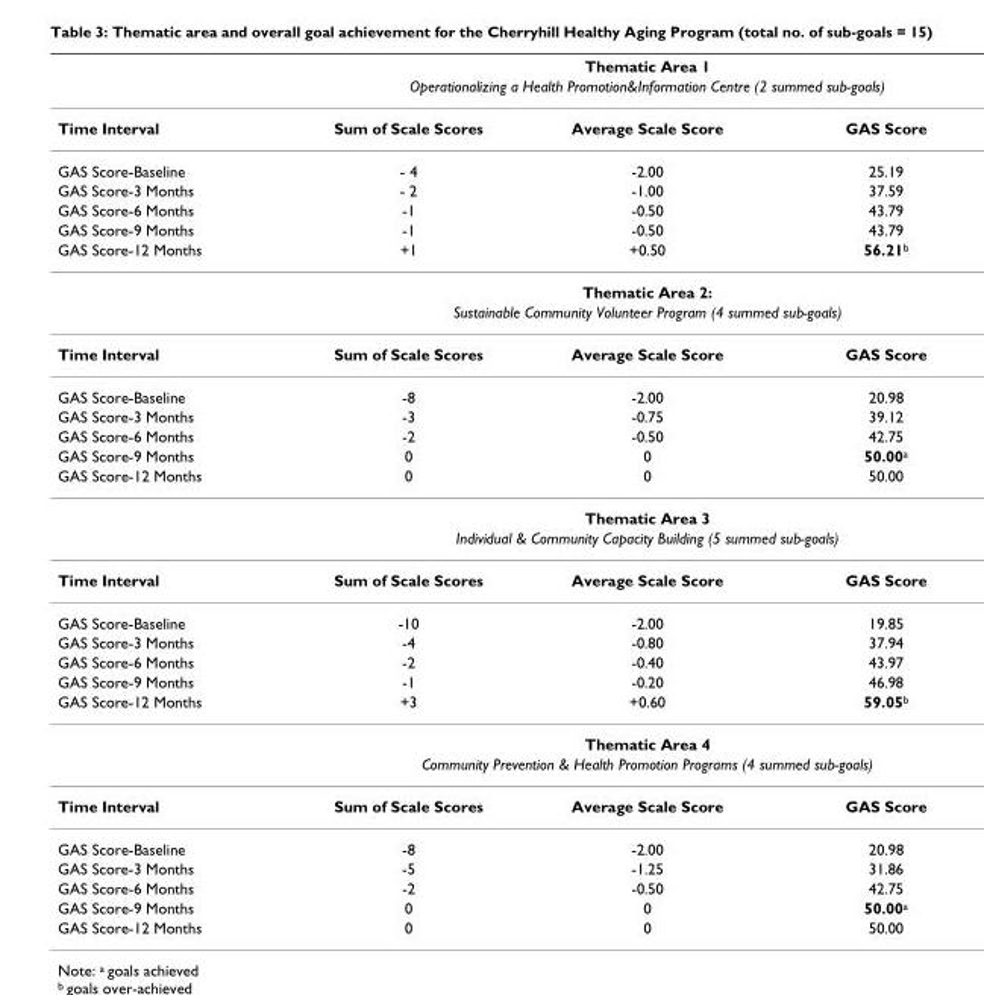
<table><thead><tr><td rowspan="3">Time Interval</td><td rowspan="2" colspan="3">Thematic Area 1 Operationalizing a Health Promotion&amp;Information Centre (2 summed sub-goals)</td></tr><tr></tr><tr><td>Sum of Scale Scores</td><td>Average Scale Score</td><td>GAS Score</td></tr></thead><tbody><tr><td>GAS Score-Baseline</td><td>- 4</td><td>-2.00</td><td>25.19</td></tr><tr><td>GAS Score-3 Months</td><td>- 2</td><td>-1.00</td><td>37.59</td></tr><tr><td>GAS Score-6 Months</td><td>-1</td><td>-0.50</td><td>43.79</td></tr><tr><td>GAS Score-9 Months</td><td>-1</td><td>-0.50</td><td>43.79</td></tr><tr><td rowspan="3">GAS Score-12 Months</td><td>+1</td><td>+0.50</td><td>56.21<sup>b</sup></td></tr><tr><td colspan="3">Thematic Area 2:</td></tr><tr><td colspan="3">Sustainable Community Volunteer Program (4 summed sub-goals)</td></tr><tr><td>Time Interval</td><td>Sum of Scale Scores</td><td>Average Scale Score</td><td>GAS Score</td></tr><tr><td>GAS Score-Baseline</td><td>-8</td><td>-2.00</td><td>20.98</td></tr><tr><td>GAS Score-3 Months</td><td>-3</td><td>-0.75</td><td>39.12</td></tr><tr><td>GAS Score-6 Months</td><td>-2</td><td>-0.50</td><td>42.75</td></tr><tr><td>GAS Score-9 Months</td><td>0</td><td>0</td><td>50.00<sup>a</sup></td></tr><tr><td rowspan="3">GAS Score-12 Months</td><td>0</td><td>0</td><td>50.00</td></tr><tr><td colspan="3">Thematic Area 3</td></tr><tr><td colspan="3">Individual &amp; Community Capacity Building (5 summed sub-goals)</td></tr><tr><td>Time Interval</td><td>Sum of Scale Scores</td><td>Average Scale Score</td><td>GAS Score</td></tr><tr><td>GAS Score-Baseline</td><td>-10</td><td>-2.00</td><td>19.85</td></tr><tr><td>GAS Score-3 Months</td><td>-4</td><td>-0.80</td><td>37.94</td></tr><tr><td>GAS Score-6 Months</td><td>-2</td><td>-0.40</td><td>43.97</td></tr><tr><td>GAS Score-9 Months</td><td>-1</td><td>-0.20</td><td>46.98</td></tr><tr><td rowspan="3">GAS Score-12 Months</td><td>+3</td><td>+0.60</td><td>59.05<sup>b</sup></td></tr><tr><td colspan="3">Thematic Area 4</td></tr><tr><td colspan="3">Community Prevention &amp; Health Promotion Programs (4 summed sub-goals)</td></tr><tr><td>Time Interval</td><td>Sum of Scale Scores</td><td>Average Scale Score</td><td>GAS Score</td></tr><tr><td>GAS Score-Baseline</td><td>-8</td><td>-2.00</td><td>20.98</td></tr><tr><td>GAS Score-3 Months</td><td>-5</td><td>-1.25</td><td>31.86</td></tr><tr><td>GAS Score-6 Months</td><td>-2</td><td>-0.50</td><td>42.75</td></tr><tr><td>GAS Score-9 Months</td><td>0</td><td>0</td><td>50.00<sup>a</sup></td></tr><tr><td>GAS Score-12 Months</td><td>0</td><td>0</td><td>50.00</td></tr></tbody></table>